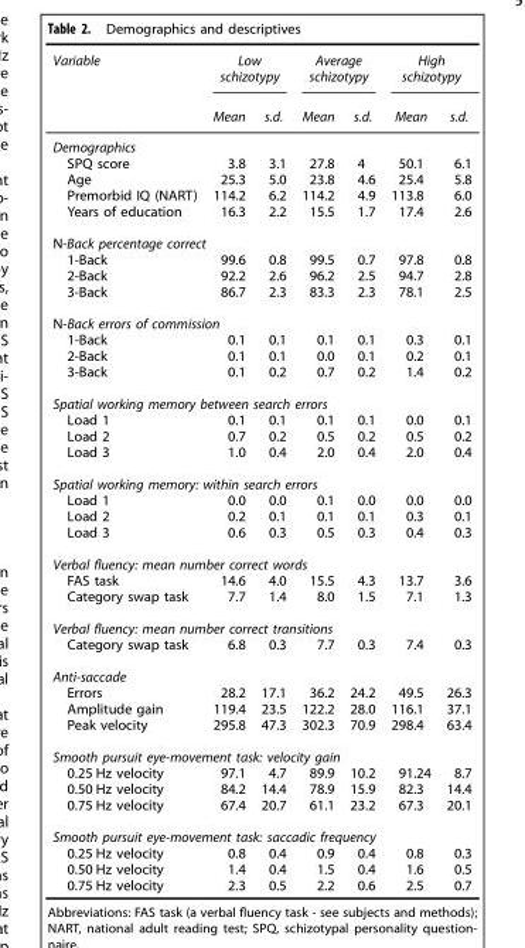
<table><thead><tr><td rowspan="2">Variable</td><td colspan="2">Low schizotypy</td><td colspan="2">Average schizotypy</td><td colspan="2">High schizotypy</td></tr><tr><td>Mean</td><td>s.d.</td><td>Mean</td><td>s.d.</td><td>Mean</td><td>s.d.</td></tr></thead><tbody><tr><td colspan="7">Demographics</td></tr><tr><td>SPQ score</td><td>3.8</td><td>3.1</td><td>27.8</td><td>4</td><td>50.1</td><td>6.1</td></tr><tr><td>Age</td><td>25.3</td><td>5.0</td><td>23.8</td><td>4.6</td><td>25.4</td><td>5.8</td></tr><tr><td>Premorbid IQ (NART)</td><td>114.2</td><td>6.2</td><td>114.2</td><td>4.9</td><td>113.8</td><td>6.0</td></tr><tr><td>Years of education</td><td>16.3</td><td>2.2</td><td>15.5</td><td>1.7</td><td>17.4</td><td>2.6</td></tr><tr><td colspan="7">N-Back percentage correct</td></tr><tr><td>1-Back</td><td>99.6</td><td>0.8</td><td>99.5</td><td>0.7</td><td>97.8</td><td>0.8</td></tr><tr><td>2-Back</td><td>92.2</td><td>2.6</td><td>96.2</td><td>2.5</td><td>94.7</td><td>2.8</td></tr><tr><td>3-Back</td><td>86.7</td><td>2.3</td><td>83.3</td><td>2.3</td><td>78.1</td><td>2.5</td></tr><tr><td colspan="7">N-Back errors of commission</td></tr><tr><td>1-Back</td><td>0.1</td><td>0.1</td><td>0.1</td><td>0.1</td><td>0.3</td><td>0.1</td></tr><tr><td>2-Back</td><td>0.1</td><td>0.1</td><td>0.0</td><td>0.1</td><td>0.2</td><td>0.1</td></tr><tr><td>3-Back</td><td>0.1</td><td>0.2</td><td>0.7</td><td>0.2</td><td>1.4</td><td>0.2</td></tr><tr><td colspan="7">Spatial working memory between search errors</td></tr><tr><td>Load 1</td><td>0.1</td><td>0.1</td><td>0.1</td><td>0.1</td><td>0.0</td><td>0.1</td></tr><tr><td>Load 2</td><td>0.7</td><td>0.2</td><td>0.5</td><td>0.2</td><td>0.5</td><td>0.2</td></tr><tr><td>Load 3</td><td>1.0</td><td>0.4</td><td>2.0</td><td>0.4</td><td>2.0</td><td>0.4</td></tr><tr><td colspan="7">Spatial working memory: within search errors</td></tr><tr><td>Load 1</td><td>0.0</td><td>0.0</td><td>0.1</td><td>0.0</td><td>0.0</td><td>0.0</td></tr><tr><td>Load 2</td><td>0.2</td><td>0.1</td><td>0.1</td><td>0.1</td><td>0.3</td><td>0.1</td></tr><tr><td>Load 3</td><td>0.6</td><td>0.3</td><td>0.5</td><td>0.3</td><td>0.4</td><td>0.3</td></tr><tr><td colspan="7">Verbal fluency: mean number correct words</td></tr><tr><td>FAS task</td><td>14.6</td><td>4.0</td><td>15.5</td><td>4.3</td><td>13.7</td><td>3.6</td></tr><tr><td>Category swap task</td><td>7.7</td><td>1.4</td><td>8.0</td><td>1.5</td><td>7.1</td><td>1.3</td></tr><tr><td colspan="7">Verbal fluency: mean number correct transitions</td></tr><tr><td>Category swap task</td><td>6.8</td><td>0.3</td><td>7.7</td><td>0.3</td><td>7.4</td><td>0.3</td></tr><tr><td colspan="7">Anti-saccade</td></tr><tr><td>Errors</td><td>28.2</td><td>17.1</td><td>36.2</td><td>24.2</td><td>49.5</td><td>26.3</td></tr><tr><td>Amplitude gain</td><td>119.4</td><td>23.5</td><td>122.2</td><td>28.0</td><td>116.1</td><td>37.1</td></tr><tr><td>Peak velocity</td><td>295.8</td><td>47.3</td><td>302.3</td><td>70.9</td><td>298.4</td><td>63.4</td></tr><tr><td colspan="7">Smooth pursuit eye-movement task: velocity gain</td></tr><tr><td>0.25 Hz velocity</td><td>97.1</td><td>4.7</td><td>89.9</td><td>10.2</td><td>91.24</td><td>8.7</td></tr><tr><td>0.50 Hz velocity</td><td>84.2</td><td>14.4</td><td>78.9</td><td>15.9</td><td>82.3</td><td>14.4</td></tr><tr><td>0.75 Hz velocity</td><td>67.4</td><td>20.7</td><td>61.1</td><td>23.2</td><td>67.3</td><td>20.1</td></tr><tr><td colspan="7">Smooth pursuit eye-movement task: saccadic frequency</td></tr><tr><td>0.25 Hz velocity</td><td>0.8</td><td>0.4</td><td>0.9</td><td>0.4</td><td>0.8</td><td>0.3</td></tr><tr><td>0.50 Hz velocity</td><td>1.4</td><td>0.4</td><td>1.5</td><td>0.4</td><td>1.6</td><td>0.5</td></tr><tr><td>0.75 Hz velocity</td><td>2.3</td><td>0.5</td><td>2.2</td><td>0.6</td><td>2.5</td><td>0.7</td></tr></tbody></table>